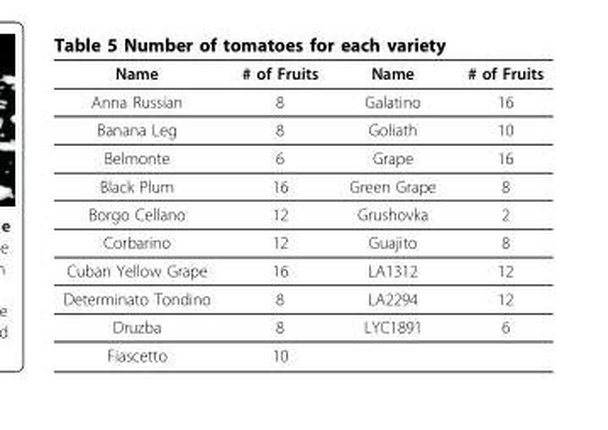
<table><thead><tr><td>Name</td><td># of Fruits</td><td>Name</td><td># of Fruits</td></tr></thead><tbody><tr><td>Anna Russian</td><td>8</td><td>Galatino</td><td>16</td></tr><tr><td>Banana Leg</td><td>8</td><td>Goliath</td><td>10</td></tr><tr><td>Belmonte</td><td>6</td><td>Grape</td><td>16</td></tr><tr><td>Black Plum</td><td>16</td><td>Green Grape</td><td>8</td></tr><tr><td>Borgo Cellano</td><td>12</td><td>Grushovka</td><td>2</td></tr><tr><td>Corbarino</td><td>12</td><td>Guajito</td><td>8</td></tr><tr><td>Cuban Yellow Grape</td><td>16</td><td>LA1312</td><td>12</td></tr><tr><td>Determinato Tondino</td><td>8</td><td>LA2294</td><td>12</td></tr><tr><td>Druzba</td><td>8</td><td>LYC1891</td><td>6</td></tr><tr><td>Fiascetto</td><td>10</td><td></td><td></td></tr></tbody></table>